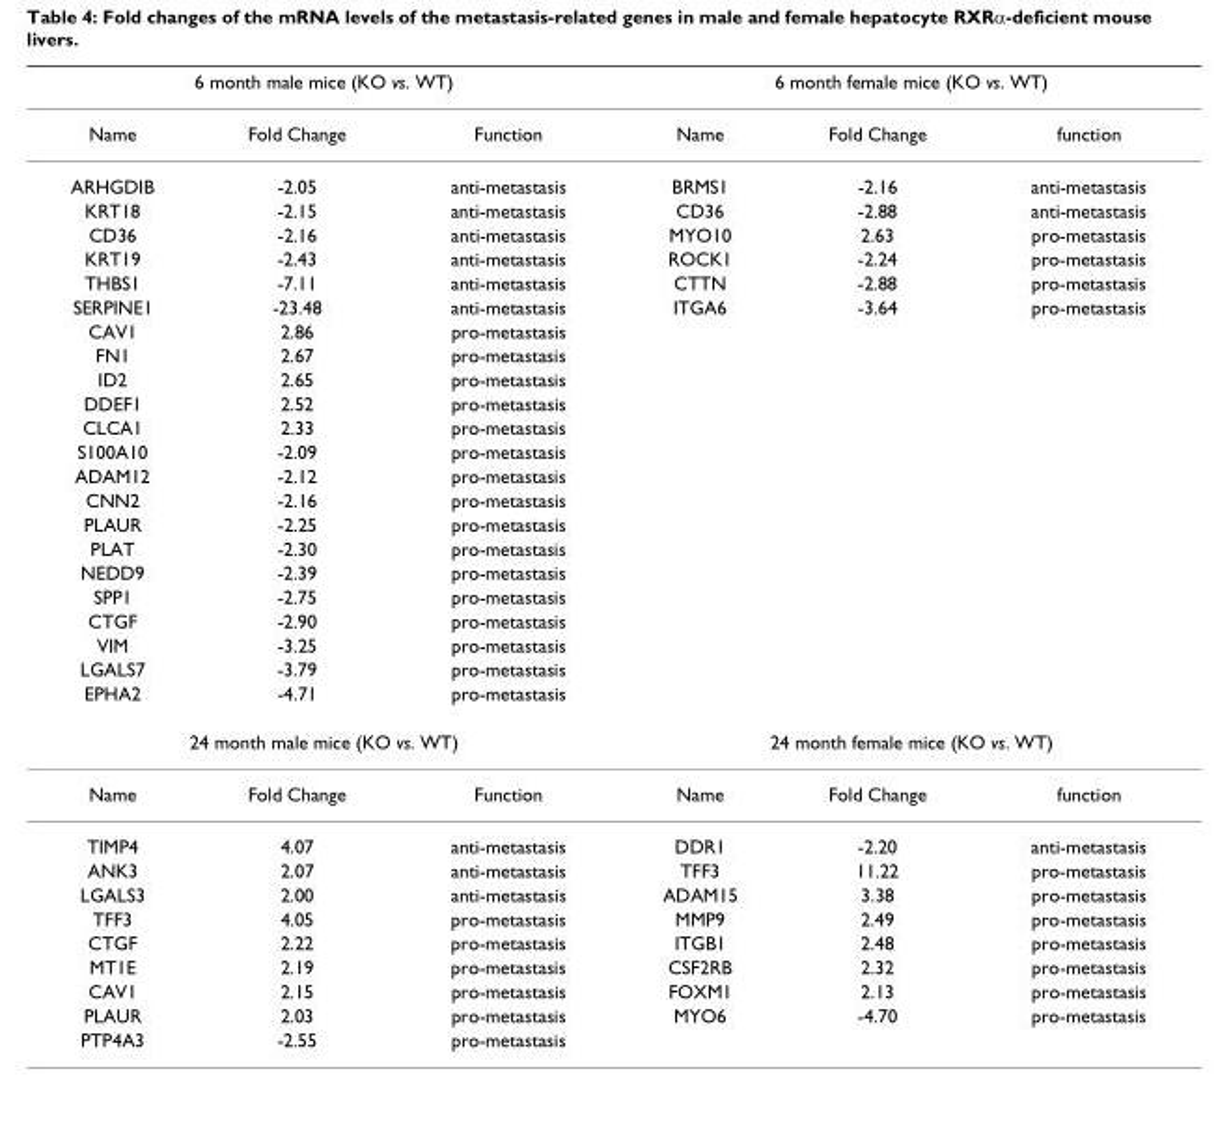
<table><thead><tr><td colspan="3">6 month male mice (KO vs. WT)</td><td colspan="3">6 month female mice (KO vs. WT)</td></tr><tr><td>Name</td><td>Fold Change</td><td>Function</td><td>Name</td><td>Fold Change</td><td>function</td></tr></thead><tbody><tr><td>ARHGDIB</td><td>-2.05</td><td>anti-metastasis</td><td>BRMS1</td><td>-2.16</td><td>anti-metastasis</td></tr><tr><td>KRT18</td><td>-2.15</td><td>anti-metastasis</td><td>CD36</td><td>-2.88</td><td>anti-metastasis</td></tr><tr><td>CD36</td><td>-2.16</td><td>anti-metastasis</td><td>MYO10</td><td>2.63</td><td>pro-metastasis</td></tr><tr><td>KRT19</td><td>-2.43</td><td>anti-metastasis</td><td>ROCK1</td><td>-2.24</td><td>pro-metastasis</td></tr><tr><td>THBS1</td><td>-7.11</td><td>anti-metastasis</td><td>CTTN</td><td>-2.88</td><td>pro-metastasis</td></tr><tr><td>SERPINE1</td><td>-23.48</td><td>anti-metastasis</td><td>ITGA6</td><td>-3.64</td><td>pro-metastasis</td></tr><tr><td>CAV1</td><td>2.86</td><td>pro-metastasis</td><td></td><td></td><td></td></tr><tr><td>FN1</td><td>2.67</td><td>pro-metastasis</td><td></td><td></td><td></td></tr><tr><td>ID2</td><td>2.65</td><td>pro-metastasis</td><td></td><td></td><td></td></tr><tr><td>DDEF1</td><td>2.52</td><td>pro-metastasis</td><td></td><td></td><td></td></tr><tr><td>CLCA1</td><td>2.33</td><td>pro-metastasis</td><td></td><td></td><td></td></tr><tr><td>S100A10</td><td>-2.09</td><td>pro-metastasis</td><td></td><td></td><td></td></tr><tr><td>ADAM12</td><td>-2.12</td><td>pro-metastasis</td><td></td><td></td><td></td></tr><tr><td>CNN2</td><td>-2.16</td><td>pro-metastasis</td><td></td><td></td><td></td></tr><tr><td>PLAUR</td><td>-2.25</td><td>pro-metastasis</td><td></td><td></td><td></td></tr><tr><td>PLAT</td><td>-2.30</td><td>pro-metastasis</td><td></td><td></td><td></td></tr><tr><td>NEDD9</td><td>-2.39</td><td>pro-metastasis</td><td></td><td></td><td></td></tr><tr><td>SPP1</td><td>-2.75</td><td>pro-metastasis</td><td></td><td></td><td></td></tr><tr><td>CTGF</td><td>-2.90</td><td>pro-metastasis</td><td></td><td></td><td></td></tr><tr><td>VIM</td><td>-3.25</td><td>pro-metastasis</td><td></td><td></td><td></td></tr><tr><td>LGALS7</td><td>-3.79</td><td>pro-metastasis</td><td></td><td></td><td></td></tr><tr><td>EPHA2</td><td>-4.71</td><td>pro-metastasis</td><td></td><td></td><td></td></tr><tr><td colspan="3">24 month male mice (KO vs. WT)</td><td colspan="3">24 month female mice (KO vs. WT)</td></tr><tr><td>Name</td><td>Fold Change</td><td>Function</td><td>Name</td><td>Fold Change</td><td>function</td></tr><tr><td>TIMP4</td><td>4.07</td><td>anti-metastasis</td><td>DDR1</td><td>-2.20</td><td>anti-metastasis</td></tr><tr><td>ANK3</td><td>2.07</td><td>anti-metastasis</td><td>TFF3</td><td>11.22</td><td>pro-metastasis</td></tr><tr><td>LGALS3</td><td>2.00</td><td>anti-metastasis</td><td>ADAM15</td><td>3.38</td><td>pro-metastasis</td></tr><tr><td>TFF3</td><td>4.05</td><td>pro-metastasis</td><td>MMP9</td><td>2.49</td><td>pro-metastasis</td></tr><tr><td>CTGF</td><td>2.22</td><td>pro-metastasis</td><td>ITGB1</td><td>2.48</td><td>pro-metastasis</td></tr><tr><td>MT1E</td><td>2.19</td><td>pro-metastasis</td><td>CSF2RB</td><td>2.32</td><td>pro-metastasis</td></tr><tr><td>CAV1</td><td>2.15</td><td>pro-metastasis</td><td>FOXM1</td><td>2.13</td><td>pro-metastasis</td></tr><tr><td>PLAUR</td><td>2.03</td><td>pro-metastasis</td><td>MYO6</td><td>-4.70</td><td>pro-metastasis</td></tr><tr><td>PTP4A3</td><td>-2.55</td><td>pro-metastasis</td><td></td><td></td><td></td></tr></tbody></table>